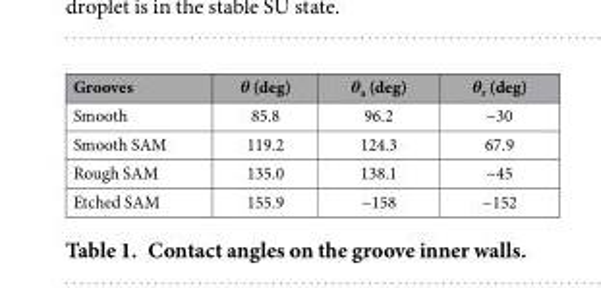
<table><thead><tr><td>Grooves</td><td>θ (deg)</td><td>θ<sub>a</sub> (deg)</td><td>θ<sub>r</sub> (deg)</td></tr></thead><tbody><tr><td>Smooth</td><td>85.8</td><td>96.2</td><td>~30</td></tr><tr><td>Smooth SAM</td><td>119.2</td><td>124.3</td><td>67.9</td></tr><tr><td>Rough SAM</td><td>135.0</td><td>138.1</td><td>~45</td></tr><tr><td>Etched SAM</td><td>155.9</td><td>~158</td><td>~152</td></tr></tbody></table>